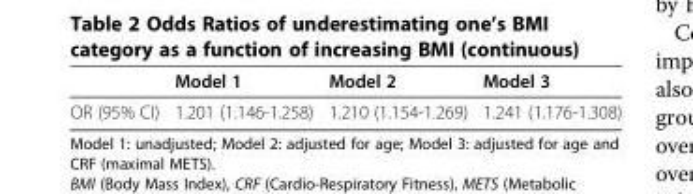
<table><thead><tr><td></td><td>Model 1</td><td>Model 2</td><td>Model 3</td></tr></thead><tbody><tr><td>OR (95% CI)</td><td>1.201 (1.146-1.258)</td><td>1.210 (1.154-1.269)</td><td>1.241 (1.176-1.308)</td></tr></tbody></table>